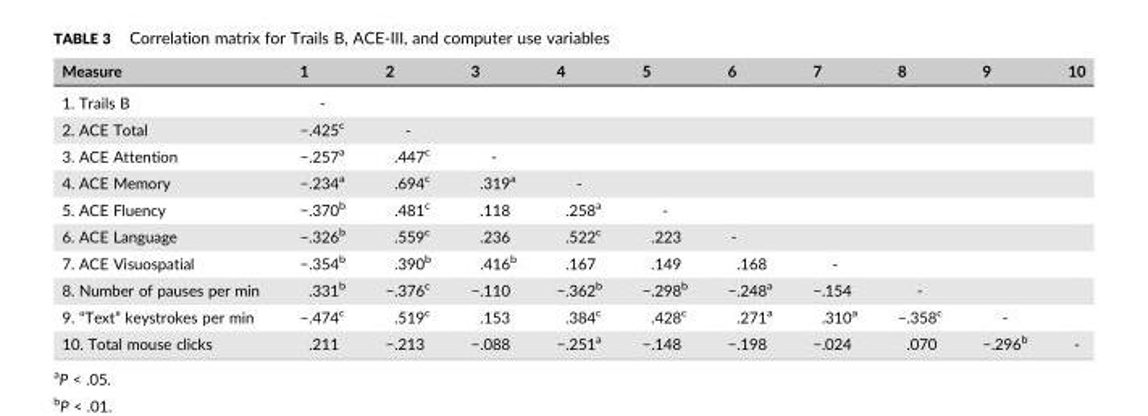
<table><thead><tr><td>Measure</td><td>1</td><td>2</td><td>3</td><td>4</td><td>5</td><td>6</td><td>7</td><td>8</td><td>9</td><td>10</td></tr></thead><tbody><tr><td>1. Trails B</td><td>‐</td><td></td><td></td><td></td><td></td><td></td><td></td><td></td><td></td><td></td></tr><tr><td>2. ACE Total</td><td>−.425<sup>c</sup></td><td>‐</td><td></td><td></td><td></td><td></td><td></td><td></td><td></td><td></td></tr><tr><td>3. ACE Attention</td><td>−.257<sup>a</sup></td><td>.447<sup>c</sup></td><td>‐</td><td></td><td></td><td></td><td></td><td></td><td></td><td></td></tr><tr><td>4. ACE Memory</td><td>−.234<sup>a</sup></td><td>.694<sup>c</sup></td><td>.319<sup>a</sup></td><td>‐</td><td></td><td></td><td></td><td></td><td></td><td></td></tr><tr><td>5. ACE Fluency</td><td>−.370<sup>b</sup></td><td>.481<sup>c</sup></td><td>.118</td><td>.258<sup>a</sup></td><td>‐</td><td></td><td></td><td></td><td></td><td></td></tr><tr><td>6. ACE Language</td><td>−.326<sup>b</sup></td><td>.559<sup>c</sup></td><td>.236</td><td>.522<sup>c</sup></td><td>.223</td><td>‐</td><td></td><td></td><td></td><td></td></tr><tr><td>7. ACE Visuospatial</td><td>−.354<sup>b</sup></td><td>.390<sup>b</sup></td><td>.416<sup>b</sup></td><td>.167</td><td>.149</td><td>.168</td><td>‐</td><td></td><td></td><td></td></tr><tr><td>8. Number of pauses per min</td><td>.331<sup>b</sup></td><td>−.376<sup>c</sup></td><td>−.110</td><td>−.362<sup>b</sup></td><td>−.298<sup>b</sup></td><td>−.248<sup>a</sup></td><td>−.154</td><td>‐</td><td></td><td></td></tr><tr><td>9. “Text” keystrokes per min</td><td>−.474<sup>c</sup></td><td>.519<sup>c</sup></td><td>.153</td><td>.384<sup>c</sup></td><td>.428<sup>c</sup></td><td>.271<sup>a</sup></td><td>.310<sup>a</sup></td><td>−.358<sup>c</sup></td><td>‐</td><td></td></tr><tr><td>10. Total mouse clicks</td><td>.211</td><td>−.213</td><td>−.088</td><td>−.251<sup>a</sup></td><td>−.148</td><td>−.198</td><td>−.024</td><td>.070</td><td>−.296<sup>b</sup></td><td>‐</td></tr></tbody></table>